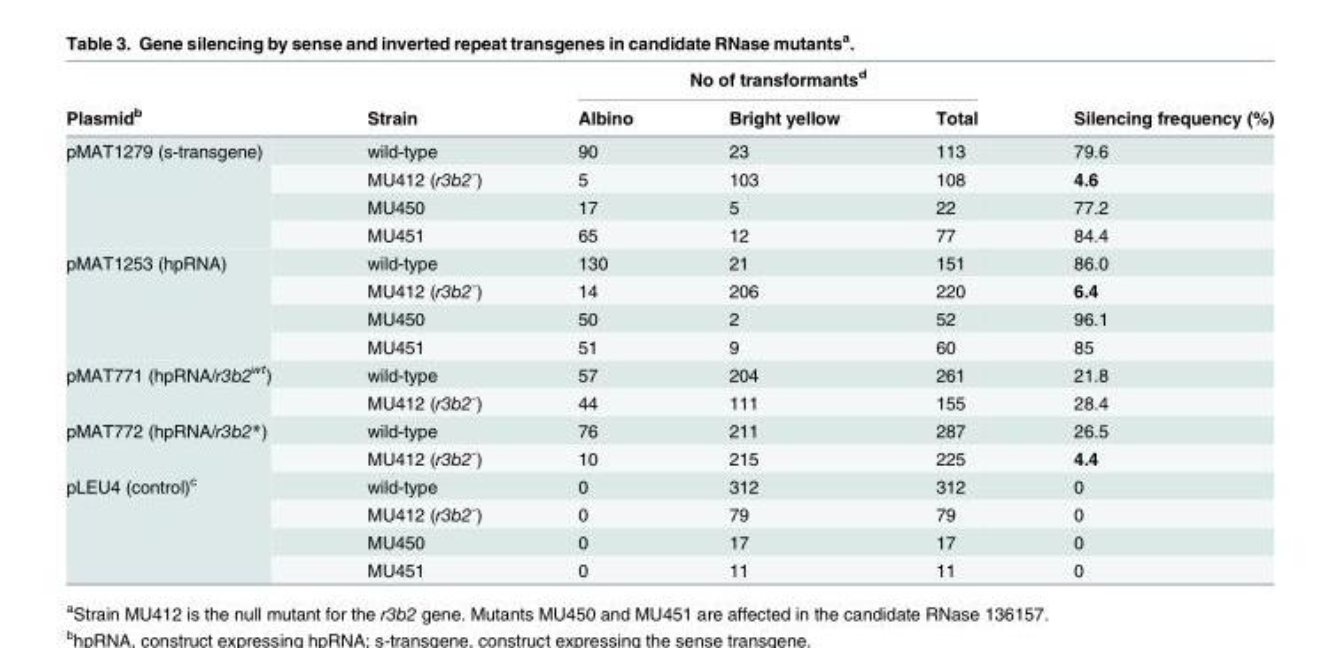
<table><thead><tr><td rowspan="2">Plasmid<sup>b</sup></td><td rowspan="2">Strain</td><td colspan="3">No of transformants<sup>d</sup></td><td rowspan="2">Silencing frequency (%)</td></tr><tr><td>Albino</td><td>Bright yellow</td><td>Total</td></tr></thead><tbody><tr><td rowspan="4">pMAT1279 (s-transgene)</td><td>wild-type</td><td>90</td><td>23</td><td>113</td><td>79.6</td></tr><tr><td>MU412 (r3b2<sup>-</sup>)</td><td>5</td><td>103</td><td>108</td><td>4.6</td></tr><tr><td>MU450</td><td>17</td><td>5</td><td>22</td><td>77.2</td></tr><tr><td>MU451</td><td>65</td><td>12</td><td>77</td><td>84.4</td></tr><tr><td rowspan="4">pMAT1253 (hpRNA)</td><td>wild-type</td><td>130</td><td>21</td><td>151</td><td>86.0</td></tr><tr><td>MU412 (r3b2<sup>-</sup>)</td><td>14</td><td>206</td><td>220</td><td>6.4</td></tr><tr><td>MU450</td><td>50</td><td>2</td><td>52</td><td>96.1</td></tr><tr><td>MU451</td><td>51</td><td>9</td><td>60</td><td>85</td></tr><tr><td rowspan="2">pMAT771 (hpRNA/r3b2<sup>wt</sup>)</td><td>wild-type</td><td>57</td><td>204</td><td>261</td><td>21.8</td></tr><tr><td>MU412 (r3b2<sup>-</sup>)</td><td>44</td><td>111</td><td>155</td><td>28.4</td></tr><tr><td rowspan="2">pMAT772 (hpRNA/r3b2*)</td><td>wild-type</td><td>76</td><td>211</td><td>287</td><td>26.5</td></tr><tr><td>MU412 (r3b2<sup>-</sup>)</td><td>10</td><td>215</td><td>225</td><td>4.4</td></tr><tr><td rowspan="4">pLEU4 (control)<sup>c</sup></td><td>wild-type</td><td>0</td><td>312</td><td>312</td><td>0</td></tr><tr><td>MU412 (r3b2<sup>-</sup>)</td><td>0</td><td>79</td><td>79</td><td>0</td></tr><tr><td>MU450</td><td>0</td><td>17</td><td>17</td><td>0</td></tr><tr><td>MU451</td><td>0</td><td>11</td><td>11</td><td>0</td></tr></tbody></table>